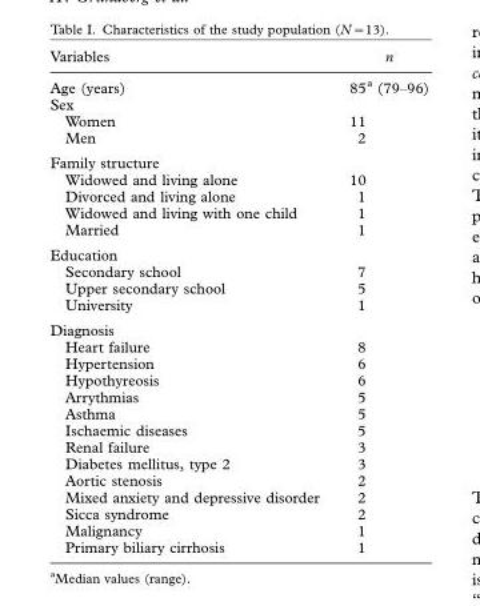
<table><thead><tr><td>Variables</td><td>n</td></tr></thead><tbody><tr><td>Age (years)</td><td>85<sup>a</sup> (79–96)</td></tr><tr><td colspan="2">Sex</td></tr><tr><td>Women</td><td>11</td></tr><tr><td>Men</td><td>2</td></tr><tr><td colspan="2">Family structure</td></tr><tr><td>Widowed and living alone</td><td>10</td></tr><tr><td>Divorced and living alone</td><td>1</td></tr><tr><td>Widowed and living with one child</td><td>1</td></tr><tr><td>Married</td><td>1</td></tr><tr><td colspan="2">Education</td></tr><tr><td>Secondary school</td><td>7</td></tr><tr><td>Upper secondary school</td><td>5</td></tr><tr><td>University</td><td>1</td></tr><tr><td colspan="2">Diagnosis</td></tr><tr><td>Heart failure</td><td>8</td></tr><tr><td>Hypertension</td><td>6</td></tr><tr><td>Hypothyreosis</td><td>6</td></tr><tr><td>Arrythmias</td><td>5</td></tr><tr><td>Asthma</td><td>5</td></tr><tr><td>Ischaemic diseases</td><td>5</td></tr><tr><td>Renal failure</td><td>3</td></tr><tr><td>Diabetes mellitus, type 2</td><td>3</td></tr><tr><td>Aortic stenosis</td><td>2</td></tr><tr><td>Mixed anxiety and depressive disorder</td><td>2</td></tr><tr><td>Sicca syndrome</td><td>2</td></tr><tr><td>Malignancy</td><td>1</td></tr><tr><td>Primary biliary cirrhosis</td><td>1</td></tr></tbody></table>